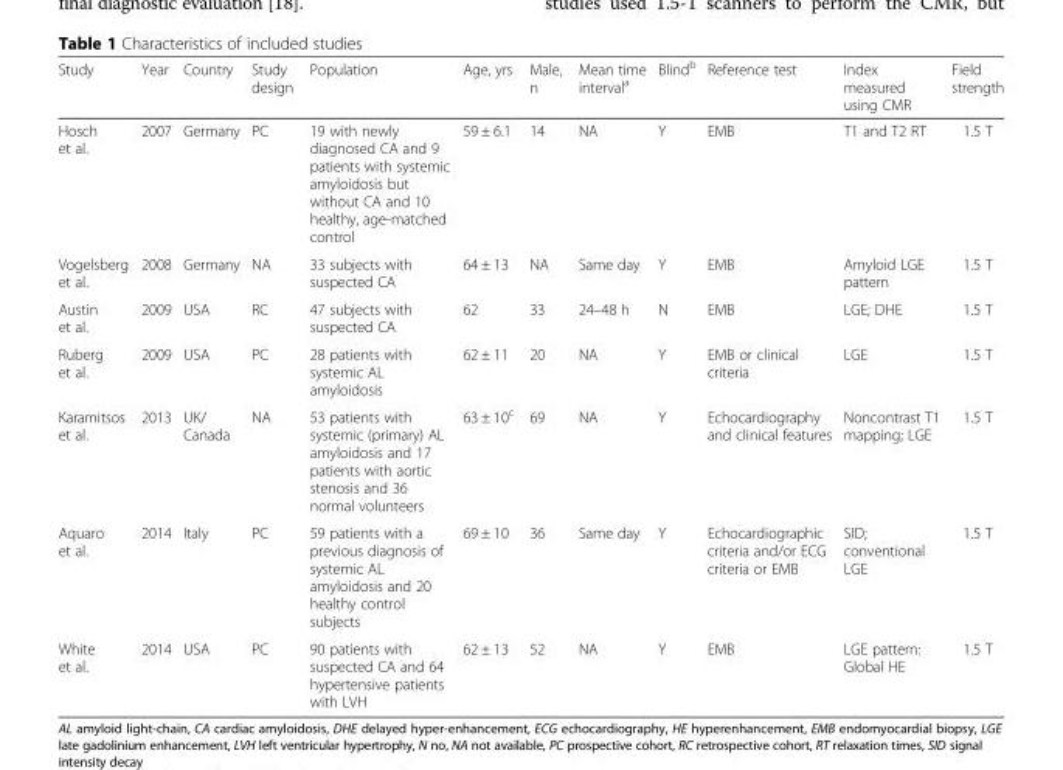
<table><thead><tr><td>Study</td><td>Year</td><td>Country</td><td>Study design</td><td>Population</td><td>Age, yrs</td><td>Male, n</td><td>Mean time interval<sup>a</sup></td><td>Blind<sup>b</sup></td><td>Reference test</td><td>Index measured using CMR</td><td>Field strength</td></tr></thead><tbody><tr><td>Hosch et al.</td><td>2007</td><td>Germany</td><td>PC</td><td>19 with newly diagnosed CA and 9 patients with systemic amyloidosis but without CA and 10 healthy, age-matched control</td><td>59 ± 6.1</td><td>14</td><td>NA</td><td>Y</td><td>EMB</td><td>T1 and T2 RT</td><td>1.5 T</td></tr><tr><td>Vogelsberg et al.</td><td>2008</td><td>Germany</td><td>NA</td><td>33 subjects with suspected CA</td><td>64 ± 13</td><td>NA</td><td>Same day</td><td>Y</td><td>EMB</td><td>Amyloid LGE pattern</td><td>1.5 T</td></tr><tr><td>Austin et al.</td><td>2009</td><td>USA</td><td>RC</td><td>47 subjects with suspected CA</td><td>62</td><td>33</td><td>24–48 h</td><td>N</td><td>EMB</td><td>LGE; DHE</td><td>1.5 T</td></tr><tr><td>Ruberg et al.</td><td>2009</td><td>USA</td><td>PC</td><td>28 patients with systemic AL amyloidosis</td><td>62 ± 11</td><td>20</td><td>NA</td><td>Y</td><td>EMB or clinical criteria</td><td>LGE</td><td>1.5 T</td></tr><tr><td>Karamitsos et al.</td><td>2013</td><td>UK/ Canada</td><td>NA</td><td>53 patients with systemic (primary) AL amyloidosis and 17 patients with aortic stenosis and 36 normal volunteers</td><td>63 ± 10<sup>c</sup></td><td>69</td><td>NA</td><td>Y</td><td>Echocardiography and clinical features</td><td>Noncontrast T1 mapping; LGE</td><td>1.5 T</td></tr><tr><td>Aquaro et al.</td><td>2014</td><td>Italy</td><td>PC</td><td>59 patients with a previous diagnosis of systemic AL amyloidosis and 20 healthy control subjects</td><td>69 ± 10</td><td>36</td><td>Same day</td><td>Y</td><td>Echocardiographic criteria and/or ECG criteria or EMB</td><td>SID; conventional LGE</td><td>1.5 T</td></tr><tr><td>White et al.</td><td>2014</td><td>USA</td><td>PC</td><td>90 patients with suspected CA and 64 hypertensive patients with LVH</td><td>62 ± 13</td><td>52</td><td>NA</td><td>Y</td><td>EMB</td><td>LGE pattern: Global HE</td><td>1.5 T</td></tr></tbody></table>